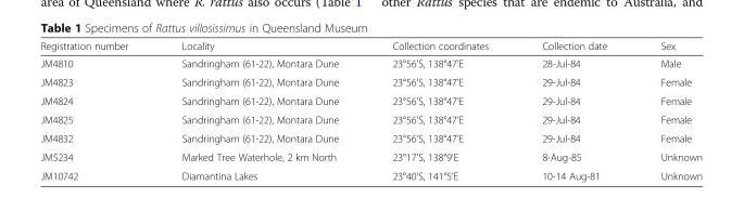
<table><thead><tr><td>Registration number</td><td>Locality</td><td>Collection coordinates</td><td>Collection date</td><td>Sex</td></tr></thead><tbody><tr><td>JM4810</td><td>Sandringham (61-22), Montara Dune</td><td>23°56&#x27;S, 138°47&#x27;E</td><td>28-Jul-84</td><td>Male</td></tr><tr><td>JM4823</td><td>Sandringham (61-22), Montara Dune</td><td>23°56&#x27;S, 138°47&#x27;E</td><td>29-Jul-84</td><td>Female</td></tr><tr><td>JM4824</td><td>Sandringham (61-22), Montara Dune</td><td>23°56&#x27;S, 138°47&#x27;E</td><td>29-Jul-84</td><td>Female</td></tr><tr><td>JM4825</td><td>Sandringham (61-22), Montara Dune</td><td>23°56&#x27;S, 138°47&#x27;E</td><td>29-Jul-84</td><td>Female</td></tr><tr><td>JM4832</td><td>Sandringham (61-22), Montara Dune</td><td>23°56&#x27;S, 138°47&#x27;E</td><td>29-Jul-84</td><td>Female</td></tr><tr><td>JM5234</td><td>Marked Tree Waterhole, 2 km North</td><td>23°17&#x27;S, 138°9&#x27;E</td><td>8-Aug-85</td><td>Unknown</td></tr><tr><td>JM10742</td><td>Diamantina Lakes</td><td>23°40&#x27;S, 141°5&#x27;E</td><td>10-14 Aug-81</td><td>Unknown</td></tr></tbody></table>